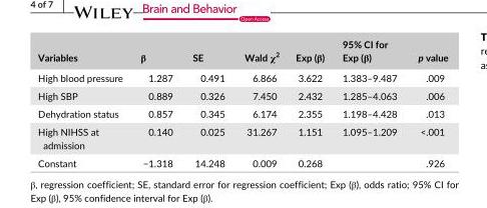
<table><thead><tr><td>Variables</td><td>β</td><td>SE</td><td>Wald χ<sup>2</sup></td><td>Exp (β)</td><td>95% CI for Exp (β)</td><td>p value</td></tr></thead><tbody><tr><td>High blood pressure</td><td>1.287</td><td>0.491</td><td>6.866</td><td>3.622</td><td>1.383–9.487</td><td>.009</td></tr><tr><td>High SBP</td><td>0.889</td><td>0.326</td><td>7.450</td><td>2.432</td><td>1.285–4.063</td><td>.006</td></tr><tr><td>Dehydration status</td><td>0.857</td><td>0.345</td><td>6.174</td><td>2.355</td><td>1.198–4.428</td><td>.013</td></tr><tr><td>High NIHSS at admission</td><td>0.140</td><td>0.025</td><td>31.267</td><td>1.151</td><td>1.095–1.209</td><td>&lt;.001</td></tr><tr><td>Constant</td><td>−1.318</td><td>14.248</td><td>0.009</td><td>0.268</td><td></td><td>.926</td></tr></tbody></table>